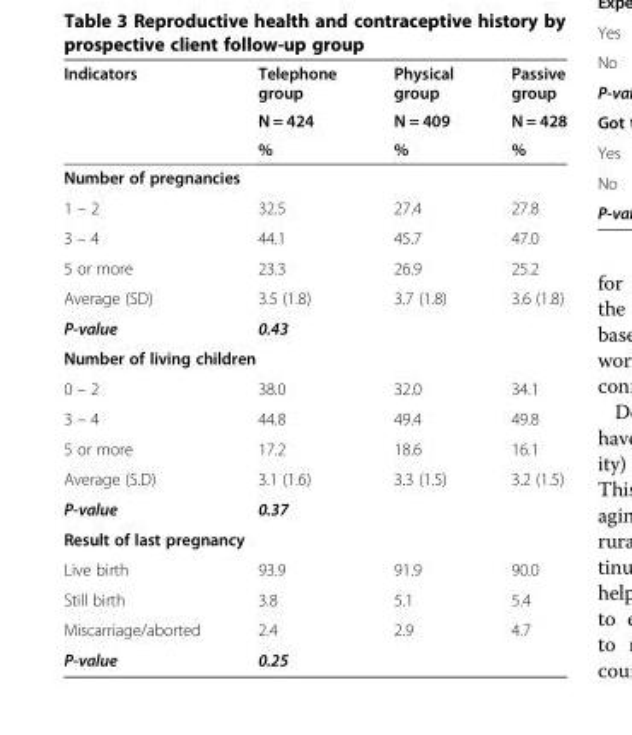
<table><thead><tr><td rowspan="3">Indicators</td><td rowspan="3">Telephone group N = 424 %</td><td rowspan="3">Physical group N = 409 %</td><td rowspan="3">Passive group N = 428 %</td></tr><tr></tr><tr></tr></thead><tbody><tr><td colspan="4">Number of pregnancies</td></tr><tr><td>1 – 2</td><td>32.5</td><td>27.4</td><td>27.8</td></tr><tr><td>3 – 4</td><td>44.1</td><td>45.7</td><td>47.0</td></tr><tr><td>5 or more</td><td>23.3</td><td>26.9</td><td>25.2</td></tr><tr><td>Average (SD)</td><td>3.5 (1.8)</td><td>3.7 (1.8)</td><td>3.6 (1.8)</td></tr><tr><td>P-value</td><td colspan="3">0.43</td></tr><tr><td colspan="4">Number of living children</td></tr><tr><td>0 – 2</td><td>38.0</td><td>32.0</td><td>34.1</td></tr><tr><td>3 – 4</td><td>44.8</td><td>49.4</td><td>49.8</td></tr><tr><td>5 or more</td><td>17.2</td><td>18.6</td><td>16.1</td></tr><tr><td>Average (S.D)</td><td>3.1 (1.6)</td><td>3.3 (1.5)</td><td>3.2 (1.5)</td></tr><tr><td>P-value</td><td colspan="3">0.37</td></tr><tr><td colspan="4">Result of last pregnancy</td></tr><tr><td>Live birth</td><td>93.9</td><td>91.9</td><td>90.0</td></tr><tr><td>Still birth</td><td>3.8</td><td>5.1</td><td>5.4</td></tr><tr><td>Miscarriage/aborted</td><td>2.4</td><td>2.9</td><td>4.7</td></tr><tr><td>P-value</td><td colspan="3">0.25</td></tr></tbody></table>